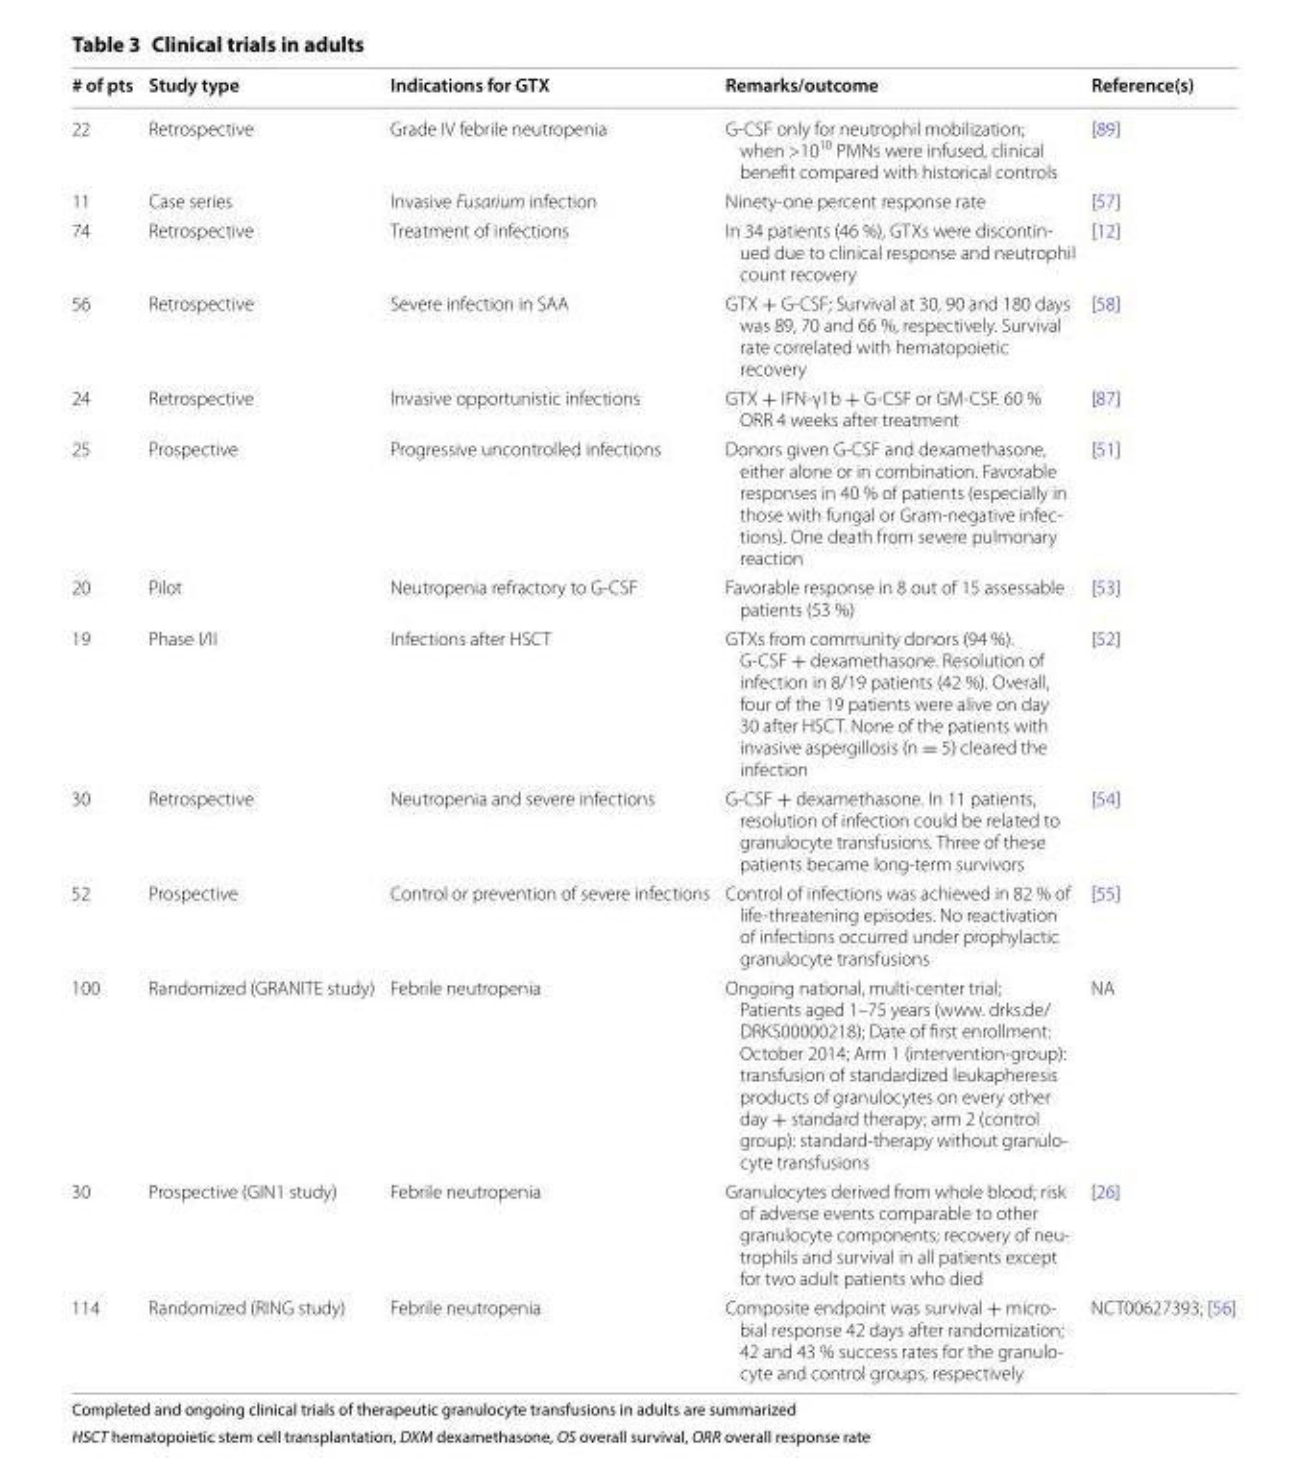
<table><thead><tr><td># of pts</td><td>Study type</td><td>Indications for GTX</td><td>Remarks/outcome</td><td>Reference(s)</td></tr></thead><tbody><tr><td>22</td><td>Retrospective</td><td>Grade IV febrile neutropenia</td><td>G-CSF only for neutrophil mobilization; when &gt;10<sup>10</sup> PMNs were infused, clinical benefit compared with historical controls</td><td>[89]</td></tr><tr><td>11</td><td>Case series</td><td>Invasive Fusarium infection</td><td>Ninety-one percent response rate</td><td>[57]</td></tr><tr><td>74</td><td>Retrospective</td><td>Treatment of infections</td><td>In 34 patients (46 %), GTXs were discontin- ued due to clinical response and neutrophil count recovery</td><td>[12]</td></tr><tr><td>56</td><td>Retrospective</td><td>Severe infection in SAA</td><td>GTX + G-CSF; Survival at 30, 90 and 180 days was 89, 70 and 66 %, respectively. Survival rate correlated with hematopoietic recovery</td><td>[58]</td></tr><tr><td>24</td><td>Retrospective</td><td>Invasive opportunistic infections</td><td>GTX + IFN-γ1b + G-CSF or GM-CSF. 60 % ORR 4 weeks after treatment</td><td>[87]</td></tr><tr><td>25</td><td>Prospective</td><td>Progressive uncontrolled infections</td><td>Donors given G-CSF and dexamethasone, either alone or in combination. Favorable responses in 40 % of patients (especially in those with fungal or Gram-negative infec- tions). One death from severe pulmonary reaction</td><td>[51]</td></tr><tr><td>20</td><td>Pilot</td><td>Neutropenia refractory to G-CSF</td><td>Favorable response in 8 out of 15 assessable patients (53 %)</td><td>[53]</td></tr><tr><td>19</td><td>Phase I/II</td><td>Infections after HSCT</td><td>GTXs from community donors (94 %). G-CSF + dexamethasone. Resolution of infection in 8/19 patients (42 %). Overall, four of the 19 patients were alive on day 30 after HSCT. None of the patients with invasive aspergillosis (n = 5) cleared the infection</td><td>[52]</td></tr><tr><td>30</td><td>Retrospective</td><td>Neutropenia and severe infections</td><td>G-CSF + dexamethasone. In 11 patients, resolution of infection could be related to granulocyte transfusions. Three of these patients became long-term survivors</td><td>[54]</td></tr><tr><td>52</td><td>Prospective</td><td>Control or prevention of severe infections</td><td>Control of infections was achieved in 82 % of life-threatening episodes. No reactivation of infections occurred under prophylactic granulocyte transfusions</td><td>[55]</td></tr><tr><td>100</td><td>Randomized (GRANITE study)</td><td>Febrile neutropenia</td><td>Ongoing national, multi-center trial; Patients aged 1–75 years (www. drks.de/ DRKS00000218); Date of first enrollment: October 2014; Arm 1 (intervention-group): transfusion of standardized leukapheresis products of granulocytes on every other day + standard therapy; arm 2 (control group): standard-therapy without granulo- cyte transfusions</td><td>NA</td></tr><tr><td>30</td><td>Prospective (GIN1 study)</td><td>Febrile neutropenia</td><td>Granulocytes derived from whole blood; risk of adverse events comparable to other granulocyte components; recovery of neu- trophils and survival in all patients except for two adult patients who died</td><td>[26]</td></tr><tr><td>114</td><td>Randomized (RING study)</td><td>Febrile neutropenia</td><td>Composite endpoint was survival + micro- bial response 42 days after randomization; 42 and 43 % success rates for the granulo- cyte and control groups, respectively</td><td>NCT00627393; [56]</td></tr></tbody></table>